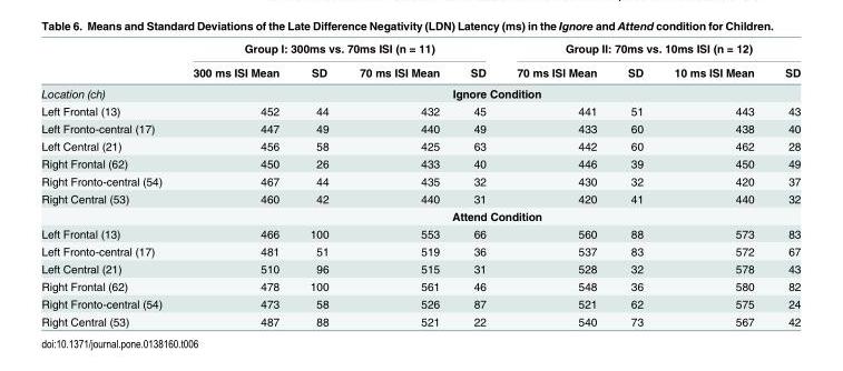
<table><thead><tr><td rowspan="2"></td><td colspan="4">Group I: 300ms vs. 70ms ISI (n = 11)</td><td colspan="4">Group II: 70ms vs. 10ms ISI (n = 12)</td></tr><tr><td>300 ms ISI Mean</td><td>SD</td><td>70 ms ISI Mean</td><td>SD</td><td>70 ms ISI Mean</td><td>SD</td><td>10 ms ISI Mean</td><td>SD</td></tr></thead><tbody><tr><td>Location (ch)</td><td colspan="8">Ignore Condition</td></tr><tr><td>Left Frontal (13)</td><td>452</td><td>44</td><td>432</td><td>45</td><td>441</td><td>51</td><td>443</td><td>43</td></tr><tr><td>Left Fronto-central (17)</td><td>447</td><td>49</td><td>440</td><td>49</td><td>433</td><td>60</td><td>438</td><td>40</td></tr><tr><td>Left Central (21)</td><td>456</td><td>58</td><td>425</td><td>63</td><td>442</td><td>60</td><td>462</td><td>28</td></tr><tr><td>Right Frontal (62)</td><td>450</td><td>26</td><td>433</td><td>40</td><td>446</td><td>39</td><td>450</td><td>49</td></tr><tr><td>Right Fronto-central (54)</td><td>467</td><td>44</td><td>435</td><td>32</td><td>430</td><td>32</td><td>420</td><td>37</td></tr><tr><td rowspan="2">Right Central (53)</td><td>460</td><td>42</td><td>440</td><td>31</td><td>420</td><td>41</td><td>440</td><td>32</td></tr><tr><td colspan="8">Attend Condition</td></tr><tr><td>Left Frontal (13)</td><td>466</td><td>100</td><td>553</td><td>66</td><td>560</td><td>88</td><td>573</td><td>83</td></tr><tr><td>Left Fronto-central (17)</td><td>481</td><td>51</td><td>519</td><td>36</td><td>537</td><td>83</td><td>572</td><td>67</td></tr><tr><td>Left Central (21)</td><td>510</td><td>96</td><td>515</td><td>31</td><td>528</td><td>32</td><td>578</td><td>43</td></tr><tr><td>Right Frontal (62)</td><td>478</td><td>100</td><td>561</td><td>46</td><td>548</td><td>36</td><td>580</td><td>82</td></tr><tr><td>Right Fronto-central (54)</td><td>473</td><td>58</td><td>526</td><td>87</td><td>521</td><td>62</td><td>575</td><td>24</td></tr><tr><td>Right Central (53)</td><td>487</td><td>88</td><td>521</td><td>22</td><td>540</td><td>73</td><td>567</td><td>42</td></tr></tbody></table>